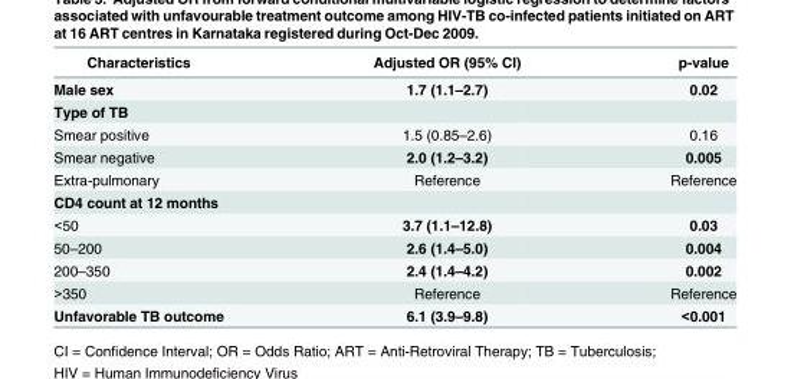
<table><thead><tr><td>Characteristics</td><td>Adjusted OR (95% CI)</td><td>p-value</td></tr></thead><tbody><tr><td>Male sex</td><td>1.7 (1.1–2.7)</td><td>0.02</td></tr><tr><td colspan="3">Type of TB</td></tr><tr><td>Smear positive</td><td>1.5 (0.85–2.6)</td><td>0.16</td></tr><tr><td>Smear negative</td><td>2.0 (1.2–3.2)</td><td>0.005</td></tr><tr><td>Extra-pulmonary</td><td>Reference</td><td>Reference</td></tr><tr><td colspan="3">CD4 count at 12 months</td></tr><tr><td>&lt;50</td><td>3.7 (1.1–12.8)</td><td>0.03</td></tr><tr><td>50–200</td><td>2.6 (1.4–5.0)</td><td>0.004</td></tr><tr><td>200–350</td><td>2.4 (1.4–4.2)</td><td>0.002</td></tr><tr><td>&gt;350</td><td>Reference</td><td>Reference</td></tr><tr><td>Unfavorable TB outcome</td><td>6.1 (3.9–9.8)</td><td>&lt;0.001</td></tr></tbody></table>